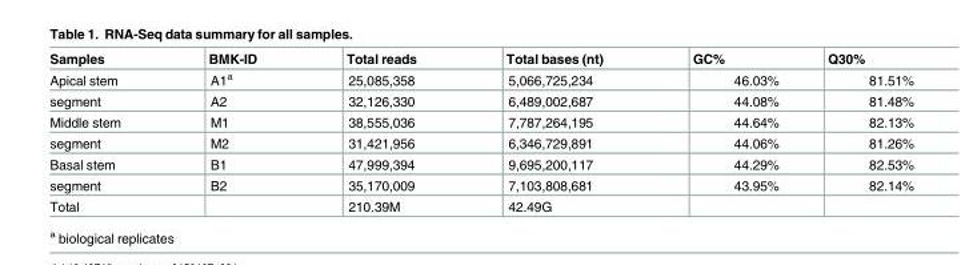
<table><thead><tr><td>Samples</td><td>BMK-ID</td><td>Total reads</td><td>Total bases (nt)</td><td>GC%</td><td>Q30%</td></tr></thead><tbody><tr><td>Apical stem</td><td>A1<sup>a</sup></td><td>25,085,358</td><td>5,066,725,234</td><td>46.03%</td><td>81.51%</td></tr><tr><td>segment</td><td>A2</td><td>32,126,330</td><td>6,489,002,687</td><td>44.08%</td><td>81.48%</td></tr><tr><td>Middle stem</td><td>M1</td><td>38,555,036</td><td>7,787,264,195</td><td>44.64%</td><td>82.13%</td></tr><tr><td>segment</td><td>M2</td><td>31,421,956</td><td>6,346,729,891</td><td>44.06%</td><td>81.26%</td></tr><tr><td>Basal stem</td><td>B1</td><td>47,999,394</td><td>9,695,200,117</td><td>44.29%</td><td>82.53%</td></tr><tr><td>segment</td><td>B2</td><td>35,170,009</td><td>7,103,808,681</td><td>43.95%</td><td>82.14%</td></tr><tr><td>Total</td><td></td><td>210.39M</td><td>42.49G</td><td></td><td></td></tr></tbody></table>